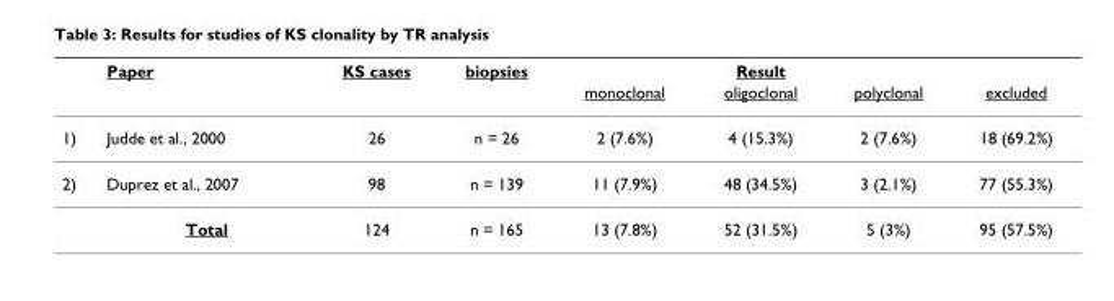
<table><thead><tr><td rowspan="2"></td><td rowspan="2">Paper</td><td rowspan="2">KS cases</td><td rowspan="2">biopsies</td><td rowspan="2">monoclonal</td><td rowspan="2">Result oligoclonal</td><td rowspan="2">polyclonal</td><td rowspan="2">excluded</td></tr><tr></tr></thead><tbody><tr><td>1)</td><td>Judde et al., 2000</td><td>26</td><td>n = 26</td><td>2 (7.6%)</td><td>4 (15.3%)</td><td>2 (7.6%)</td><td>18 (69.2%)</td></tr><tr><td rowspan="2">2)</td><td>Duprez et al., 2007</td><td>98</td><td>n = 139</td><td>11 (7.9%)</td><td>48 (34.5%)</td><td>3 (2.1%)</td><td>77 (55.3%)</td></tr><tr><td>Total</td><td>124</td><td>n = 165</td><td>13 (7.8%)</td><td>52 (31.5%)</td><td>5 (3%)</td><td>95 (57.5%)</td></tr></tbody></table>